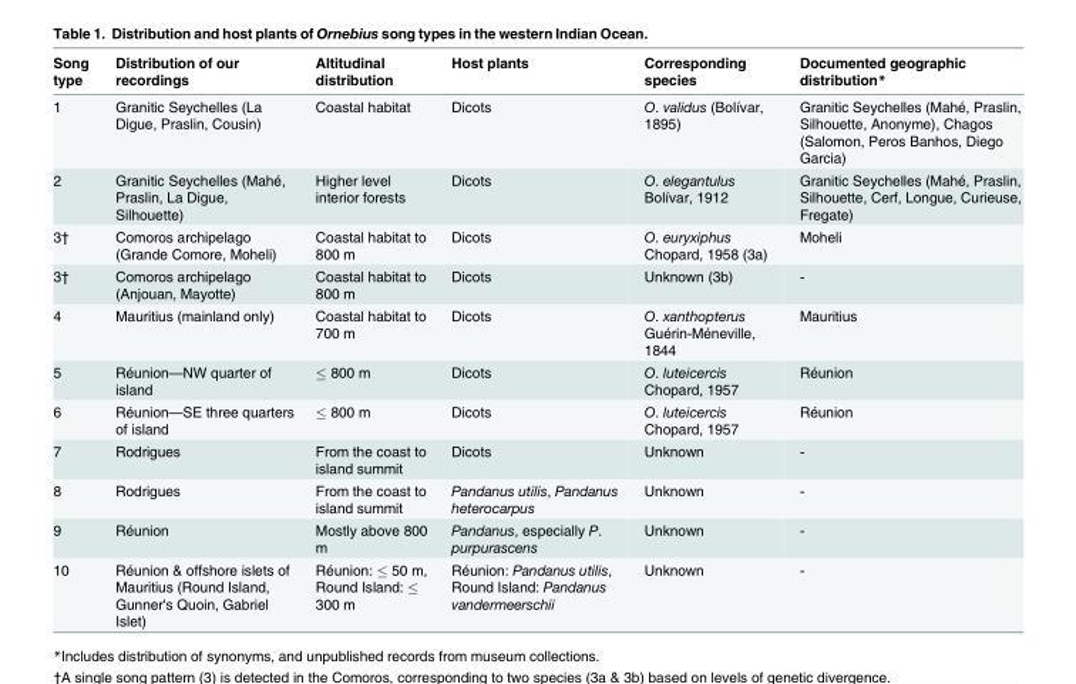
<table><thead><tr><td>Song type</td><td>Distribution of our recordings</td><td>Altitudinal distribution</td><td>Host plants</td><td>Corresponding species</td><td>Documented geographic distribution*</td></tr></thead><tbody><tr><td>1</td><td>Granitic Seychelles (La Digue, Praslin, Cousin)</td><td>Coastal habitat</td><td>Dicots</td><td>O. validus (Bolívar, 1895)</td><td>Granitic Seychelles (Mahé, Praslin, Silhouette, Anonyme), Chagos (Salomon, Peros Banhos, Diego Garcia)</td></tr><tr><td>2</td><td>Granitic Seychelles (Mahé, Praslin, La Digue, Silhouette)</td><td>Higher level interior forests</td><td>Dicots</td><td>O. elegantulus Bolívar, 1912</td><td>Granitic Seychelles (Mahé, Praslin, Silhouette, Cerf, Longue, Curieuse, Fregate)</td></tr><tr><td>3†</td><td>Comoros archipelago (Grande Comore, Moheli)</td><td>Coastal habitat to 800 m</td><td>Dicots</td><td>O. euryxiphus Chopard, 1958 (3a)</td><td>Moheli</td></tr><tr><td>3†</td><td>Comoros archipelago (Anjouan, Mayotte)</td><td>Coastal habitat to 800 m</td><td>Dicots</td><td>Unknown (3b)</td><td>-</td></tr><tr><td>4</td><td>Mauritius (mainland only)</td><td>Coastal habitat to 700 m</td><td>Dicots</td><td>O. xanthopterus Guérin-Méneville, 1844</td><td>Mauritius</td></tr><tr><td>5</td><td>Réunion—NW quarter of island</td><td>≤ 800 m</td><td>Dicots</td><td>O. luteicercis Chopard, 1957</td><td>Réunion</td></tr><tr><td>6</td><td>Réunion—SE three quarters of island</td><td>≤ 800 m</td><td>Dicots</td><td>O. luteicercis Chopard, 1957</td><td>Réunion</td></tr><tr><td>7</td><td>Rodrigues</td><td>From the coast to island summit</td><td>Dicots</td><td>Unknown</td><td>-</td></tr><tr><td>8</td><td>Rodrigues</td><td>From the coast to island summit</td><td>Pandanus utilis, Pandanus heterocarpus</td><td>Unknown</td><td>-</td></tr><tr><td>9</td><td>Réunion</td><td>Mostly above 800 m</td><td>Pandanus, especially P. purpurascens</td><td>Unknown</td><td>-</td></tr><tr><td>10</td><td>Réunion &amp; offshore islets of Mauritius (Round Island, Gunner&#x27;s Quoin, Gabriel Islet)</td><td>Réunion: ≤ 50 m, Round Island: ≤ 300 m</td><td>Réunion: Pandanus utilis, Round Island: Pandanus vandermeerschii</td><td>Unknown</td><td>-</td></tr></tbody></table>